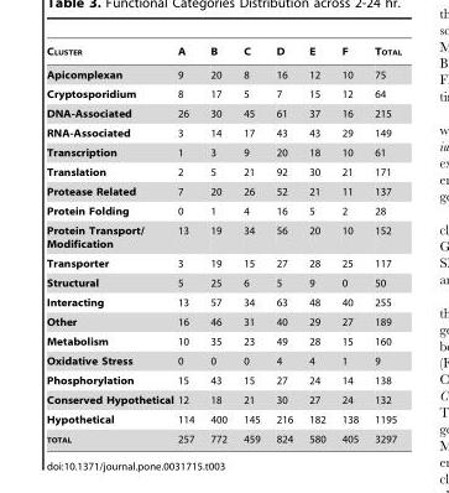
<table><thead><tr><td>CLUSTER</td><td>A</td><td>B</td><td>C</td><td>D</td><td>E</td><td>F</td><td>TOTAL</td></tr></thead><tbody><tr><td>Apicomplexan</td><td>9</td><td>20</td><td>8</td><td>16</td><td>12</td><td>10</td><td>75</td></tr><tr><td>Cryptosporidium</td><td>8</td><td>17</td><td>5</td><td>7</td><td>15</td><td>12</td><td>64</td></tr><tr><td>DNA-Associated</td><td>26</td><td>30</td><td>45</td><td>61</td><td>37</td><td>16</td><td>215</td></tr><tr><td>RNA-Associated</td><td>3</td><td>14</td><td>17</td><td>43</td><td>43</td><td>29</td><td>149</td></tr><tr><td>Transcription</td><td>1</td><td>3</td><td>9</td><td>20</td><td>18</td><td>10</td><td>61</td></tr><tr><td>Translation</td><td>2</td><td>5</td><td>21</td><td>92</td><td>30</td><td>21</td><td>171</td></tr><tr><td>Protease Related</td><td>7</td><td>20</td><td>26</td><td>52</td><td>21</td><td>11</td><td>137</td></tr><tr><td>Protein Folding</td><td>0</td><td>1</td><td>4</td><td>16</td><td>5</td><td>2</td><td>28</td></tr><tr><td>Protein Transport/ Modification</td><td>13</td><td>19</td><td>34</td><td>56</td><td>20</td><td>10</td><td>152</td></tr><tr><td>Transporter</td><td>3</td><td>19</td><td>15</td><td>27</td><td>28</td><td>25</td><td>117</td></tr><tr><td>Structural</td><td>5</td><td>25</td><td>6</td><td>5</td><td>9</td><td>0</td><td>50</td></tr><tr><td>Interacting</td><td>13</td><td>57</td><td>34</td><td>63</td><td>48</td><td>40</td><td>255</td></tr><tr><td>Other</td><td>16</td><td>46</td><td>31</td><td>40</td><td>29</td><td>27</td><td>189</td></tr><tr><td>Metabolism</td><td>10</td><td>35</td><td>23</td><td>49</td><td>28</td><td>15</td><td>160</td></tr><tr><td>Oxidative Stress</td><td>0</td><td>0</td><td>0</td><td>4</td><td>4</td><td>1</td><td>9</td></tr><tr><td>Phosphorylation</td><td>15</td><td>43</td><td>15</td><td>27</td><td>24</td><td>14</td><td>138</td></tr><tr><td>Conserved Hypothetical</td><td>12</td><td>18</td><td>21</td><td>30</td><td>27</td><td>24</td><td>132</td></tr><tr><td>Hypothetical</td><td>114</td><td>400</td><td>145</td><td>216</td><td>182</td><td>138</td><td>1195</td></tr><tr><td>TOTAL</td><td>257</td><td>772</td><td>459</td><td>824</td><td>580</td><td>405</td><td>3297</td></tr></tbody></table>